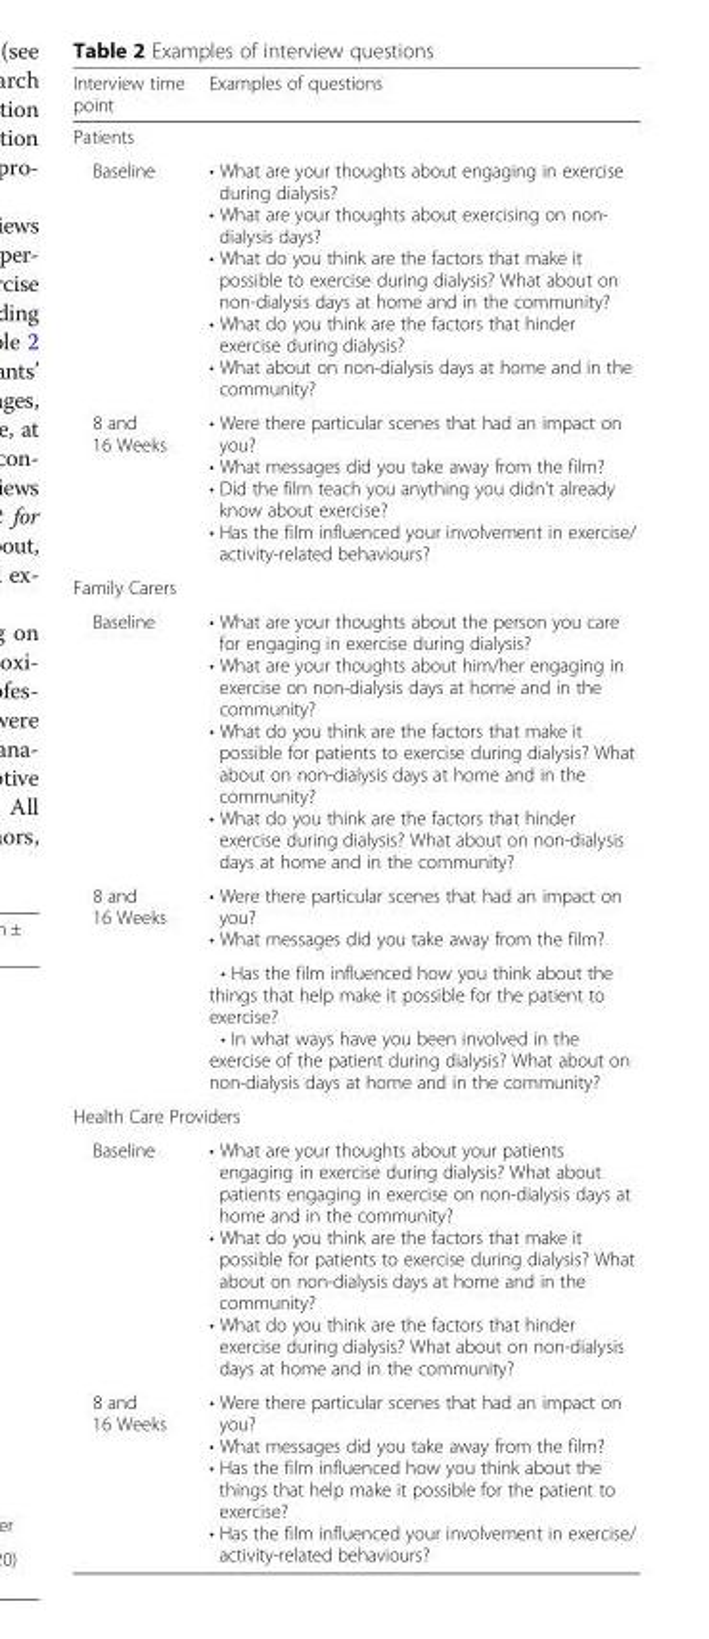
<table><thead><tr><td>Interview time point</td><td>Examples of questions</td></tr></thead><tbody><tr><td colspan="2">Patients</td></tr><tr><td>Baseline</td><td>• What are your thoughts about engaging in exercise during dialysis? • What are your thoughts about exercising on non- dialysis days? • What do you think are the factors that make it possible to exercise during dialysis? What about on non-dialysis days at home and in the community? • What do you think are the factors that hinder exercise during dialysis? • What about on non-dialysis days at home and in the community?</td></tr><tr><td>8 and 16 Weeks</td><td>• Were there particular scenes that had an impact on you? • What messages did you take away from the film? • Did the film teach you anything you didn’t already know about exercise? • Has the film influenced your involvement in exercise/ activity-related behaviours?</td></tr><tr><td colspan="2">Family Carers</td></tr><tr><td>Baseline</td><td>• What are your thoughts about the person you care for engaging in exercise during dialysis? • What are your thoughts about him/her engaging in exercise on non-dialysis days at home and in the community? • What do you think are the factors that make it possible for patients to exercise during dialysis? What about on non-dialysis days at home and in the community? • What do you think are the factors that hinder exercise during dialysis? What about on non-dialysis days at home and in the community?</td></tr><tr><td rowspan="2">8 and 16 Weeks</td><td>• Were there particular scenes that had an impact on you? • What messages did you take away from the film?</td></tr><tr><td>• Has the film influenced how you think about the things that help make it possible for the patient to exercise? • In what ways have you been involved in the exercise of the patient during dialysis? What about on non-dialysis days at home and in the community?</td></tr><tr><td colspan="2">Health Care Providers</td></tr><tr><td>Baseline</td><td>• What are your thoughts about your patients engaging in exercise during dialysis? What about patients engaging in exercise on non-dialysis days at home and in the community? • What do you think are the factors that make it possible for patients to exercise during dialysis? What about on non-dialysis days at home and in the community? • What do you think are the factors that hinder exercise during dialysis? What about on non-dialysis days at home and in the community?</td></tr><tr><td>8 and 16 Weeks</td><td>• Were there particular scenes that had an impact on you? • What messages did you take away from the film? • Has the film influenced how you think about the things that help make it possible for the patient to exercise? • Has the film influenced your involvement in exercise/ activity-related behaviours?</td></tr></tbody></table>